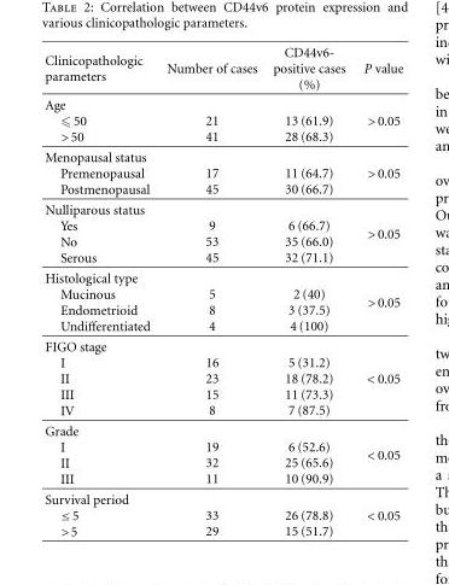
<table><thead><tr><td>Clinicopathologic parameters</td><td>Number of cases</td><td>CD44v6- positive cases (%)</td><td>P value</td></tr></thead><tbody><tr><td>Age ⩽ 50 &gt; 50</td><td>21 41</td><td>13 (61.9) 28 (68.3)</td><td>&gt; 0.05</td></tr><tr><td>Menopausal status Premenopausal Postmenopausal</td><td>17 45</td><td>11 (64.7) 30 (66.7)</td><td>&gt; 0.05</td></tr><tr><td>Nulliparous status Yes No Serous</td><td>9 53 45</td><td>6 (66.7) 35 (66.0) 32 (71.1)</td><td>&gt; 0.05</td></tr><tr><td>Histological type Mucinous Endometrioid Undifferentiated</td><td>5 8 4</td><td>2 (40) 3 (37.5) 4 (100)</td><td>&gt; 0.05</td></tr><tr><td>FIGO stage I II III IV</td><td>16 23 15 8</td><td>5 (31.2) 18 (78.2) 11 (73.3) 7 (87.5)</td><td>&lt; 0.05</td></tr><tr><td>Grade I II III</td><td>19 32 11</td><td>6 (52.6) 25 (65.6) 10 (90.9)</td><td>&lt; 0.05</td></tr><tr><td>Survival period ≤ 5 &gt; 5</td><td>33 29</td><td>26 (78.8) 15 (51.7)</td><td>&lt; 0.05</td></tr></tbody></table>